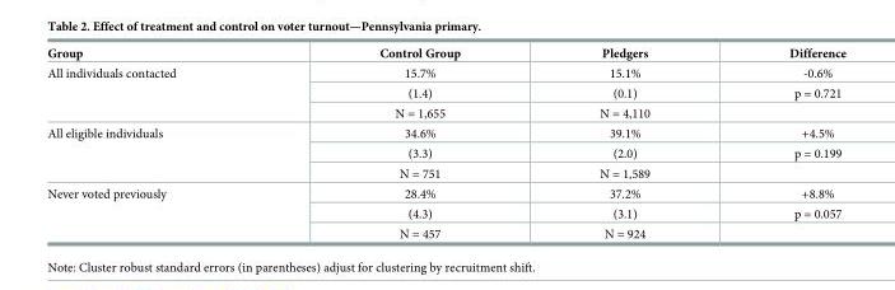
<table><thead><tr><td>Group</td><td>Control Group</td><td>Pledgers</td><td>Difference</td></tr></thead><tbody><tr><td rowspan="3">All individuals contacted</td><td>15.7%</td><td>15.1%</td><td>-0.6%</td></tr><tr><td>(1.4)</td><td>(0.1)</td><td>p = 0.721</td></tr><tr><td>N = 1,655</td><td>N = 4,110</td><td></td></tr><tr><td rowspan="3">All eligible individuals</td><td>34.6%</td><td>39.1%</td><td>+4.5%</td></tr><tr><td>(3.3)</td><td>(2.0)</td><td>p = 0.199</td></tr><tr><td>N = 751</td><td>N = 1,589</td><td></td></tr><tr><td rowspan="3">Never voted previously</td><td>28.4%</td><td>37.2%</td><td>+8.8%</td></tr><tr><td>(4.3)</td><td>(3.1)</td><td>p = 0.057</td></tr><tr><td>N = 457</td><td>N = 924</td><td></td></tr></tbody></table>